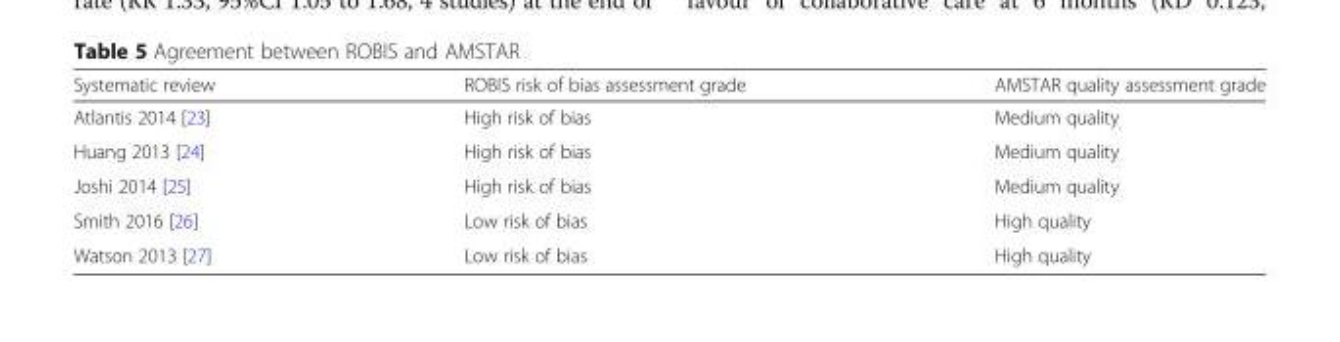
<table><thead><tr><td>Systematic review</td><td>ROBIS risk of bias assessment grade</td><td>AMSTAR quality assessment grade</td></tr></thead><tbody><tr><td>Atlantis 2014 [23]</td><td>High risk of bias</td><td>Medium quality</td></tr><tr><td>Huang 2013 [24]</td><td>High risk of bias</td><td>Medium quality</td></tr><tr><td>Joshi 2014 [25]</td><td>High risk of bias</td><td>Medium quality</td></tr><tr><td>Smith 2016 [26]</td><td>Low risk of bias</td><td>High quality</td></tr><tr><td>Watson 2013 [27]</td><td>Low risk of bias</td><td>High quality</td></tr></tbody></table>